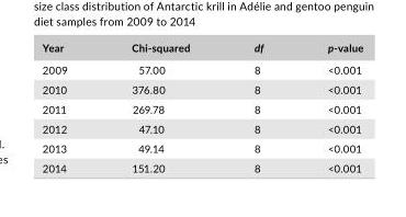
<table><thead><tr><td>Year</td><td>Chi- squared</td><td>df</td><td>p- value</td></tr></thead><tbody><tr><td>2009</td><td>57.00</td><td>8</td><td>&lt;0.001</td></tr><tr><td>2010</td><td>376.80</td><td>8</td><td>&lt;0.001</td></tr><tr><td>2011</td><td>269.78</td><td>8</td><td>&lt;0.001</td></tr><tr><td>2012</td><td>47.10</td><td>8</td><td>&lt;0.001</td></tr><tr><td>2013</td><td>49.14</td><td>8</td><td>&lt;0.001</td></tr><tr><td>2014</td><td>151.20</td><td>8</td><td>&lt;0.001</td></tr></tbody></table>